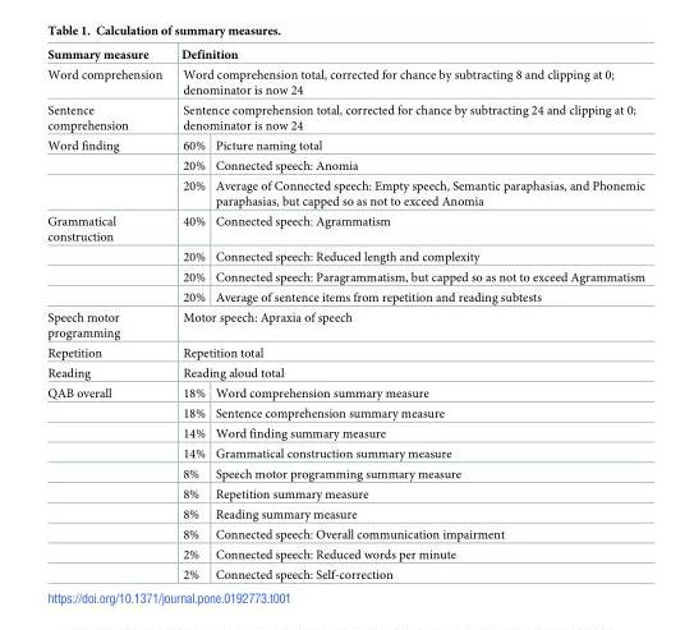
<table><thead><tr><td rowspan="4">Summary measure Word comprehension Sentence comprehension Word finding</td><td rowspan="3" colspan="2">Definition Word comprehension total, corrected for chance by subtracting 8 and clipping at 0; denominator is now 24 Sentence comprehension total, corrected for chance by subtracting 24 and clipping at 0; denominator is now 24</td></tr><tr></tr><tr></tr><tr><td>60%</td><td>Picture naming total</td></tr></thead><tbody><tr><td></td><td>20%</td><td>Connected speech: Anomia</td></tr><tr><td></td><td>20%</td><td>Average of Connected speech: Empty speech, Semantic paraphasias, and Phonemic paraphasias, but capped so as not to exceed Anomia</td></tr><tr><td rowspan="4">Grammatical construction</td><td>40%</td><td>Connected speech: Agrammatism</td></tr><tr><td>20%</td><td>Connected speech: Reduced length and complexity</td></tr><tr><td>20%</td><td>Connected speech: Paragrammatism, but capped so as not to exceed Agrammatism</td></tr><tr><td>20%</td><td>Average of sentence items from repetition and reading subtests</td></tr><tr><td>Speech motor programming</td><td colspan="2">Motor speech: Apraxia of speech</td></tr><tr><td>Repetition</td><td colspan="2">Repetition total</td></tr><tr><td>Reading</td><td colspan="2">Reading aloud total</td></tr><tr><td rowspan="10">QAB overall</td><td>18%</td><td>Word comprehension summary measure</td></tr><tr><td>18%</td><td>Sentence comprehension summary measure</td></tr><tr><td>14%</td><td>Word finding summary measure</td></tr><tr><td>14%</td><td>Grammatical construction summary measure</td></tr><tr><td>8%</td><td>Speech motor programming summary measure</td></tr><tr><td>8%</td><td>Repetition summary measure</td></tr><tr><td>8%</td><td>Reading summary measure</td></tr><tr><td>8%</td><td>Connected speech: Overall communication impairment</td></tr><tr><td>2%</td><td>Connected speech: Reduced words per minute</td></tr><tr><td>2%</td><td>Connected speech: Self-correction</td></tr></tbody></table>